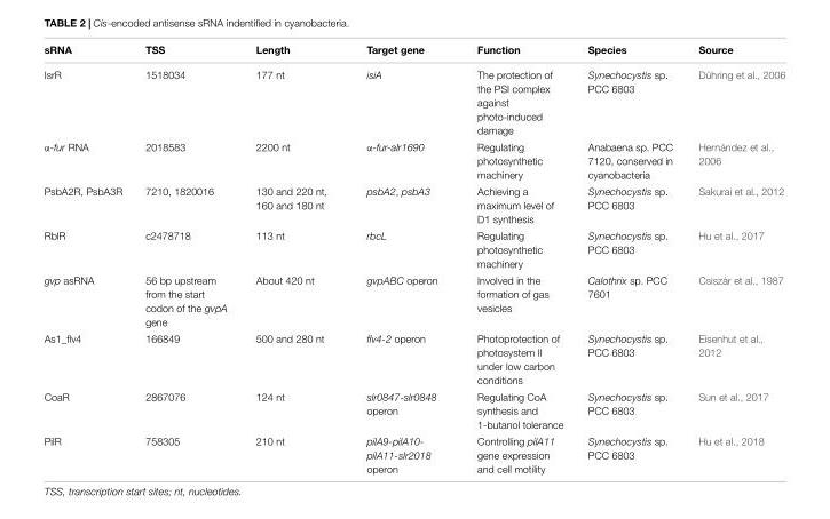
<table><thead><tr><td>sRNA</td><td>TSS</td><td>Length</td><td>Target gene</td><td>Function</td><td>Species</td><td>Source</td></tr></thead><tbody><tr><td>IsrR</td><td>1518034</td><td>177 nt</td><td>isiA</td><td>The protection of the PSI complex against photo-induced damage</td><td>Synechocystis sp. PCC 6803</td><td>Dühring et al., 2006</td></tr><tr><td>α-fur RNA</td><td>2018583</td><td>2200 nt</td><td>α-fur-alr1690</td><td>Regulating photosynthetic machinery</td><td>Anabaena sp. PCC 7120, conserved in cyanobacteria</td><td>Hernández et al., 2006</td></tr><tr><td>PsbA2R, PsbA3R</td><td>7210, 1820016</td><td>130 and 220 nt, 160 and 180 nt</td><td>psbA2, psbA3</td><td>Achieving a maximum level of D1 synthesis</td><td>Synechocystis sp. PCC 6803</td><td>Sakurai et al., 2012</td></tr><tr><td>RblR</td><td>c2478718</td><td>113 nt</td><td>rbcL</td><td>Regulating photosynthetic machinery</td><td>Synechocystis sp. PCC 6803</td><td>Hu et al., 2017</td></tr><tr><td>gvp asRNA</td><td>56 bp upstream from the start codon of the gvpA gene</td><td>About 420 nt</td><td>gvpABC operon</td><td>Involved in the formation of gas vesicles</td><td>Calothrix sp. PCC 7601</td><td>Csiszàr et al., 1987</td></tr><tr><td>As1_flv4</td><td>166849</td><td>500 and 280 nt</td><td>flv4-2 operon</td><td>Photoprotection of photosystem II under low carbon conditions</td><td>Synechocystis sp. PCC 6803</td><td>Eisenhut et al., 2012</td></tr><tr><td>CoaR</td><td>2867076</td><td>124 nt</td><td>slr0847-slr0848 operon</td><td>Regulating CoA synthesis and 1-butanol tolerance</td><td>Synechocystis sp. PCC 6803</td><td>Sun et al., 2017</td></tr><tr><td>PilR</td><td>758305</td><td>210 nt</td><td>pilA9-pilA10- pilA11-slr2018 operon</td><td>Controlling pilA11 gene expression and cell motility</td><td>Synechocystis sp. PCC 6803</td><td>Hu et al., 2018</td></tr></tbody></table>